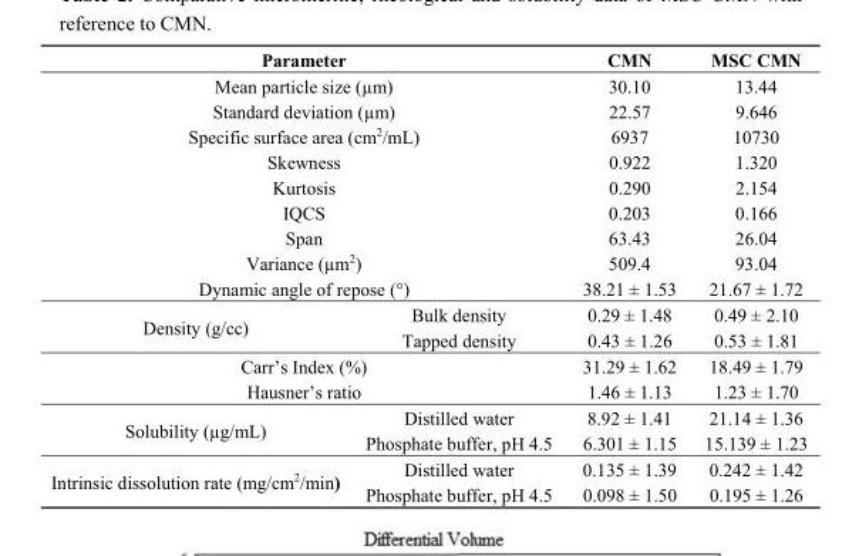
<table><thead><tr><td colspan="2">Parameter</td><td>CMN</td><td>MSC CMN</td></tr></thead><tbody><tr><td colspan="2">Mean particle size (µm)</td><td>30.10</td><td>13.44</td></tr><tr><td colspan="2">Standard deviation (µm)</td><td>22.57</td><td>9.646</td></tr><tr><td colspan="2">Specific surface area (cm<sup>2</sup>/mL)</td><td>6937</td><td>10730</td></tr><tr><td colspan="2">Skewness</td><td>0.922</td><td>1.320</td></tr><tr><td colspan="2">Kurtosis</td><td>0.290</td><td>2.154</td></tr><tr><td colspan="2">IQCS</td><td>0.203</td><td>0.166</td></tr><tr><td colspan="2">Span</td><td>63.43</td><td>26.04</td></tr><tr><td colspan="2">Variance (µm<sup>2</sup>)</td><td>509.4</td><td>93.04</td></tr><tr><td colspan="2">Dynamic angle of repose (°)</td><td>38.21 ± 1.53</td><td>21.67 ± 1.72</td></tr><tr><td rowspan="2">Density (g/cc)</td><td>Bulk density</td><td>0.29 ± 1.48</td><td>0.49 ± 2.10</td></tr><tr><td>Tapped density</td><td>0.43 ± 1.26</td><td>0.53 ± 1.81</td></tr><tr><td colspan="2">Carr’s Index (%)</td><td>31.29 ± 1.62</td><td>18.49 ± 1.79</td></tr><tr><td colspan="2">Hausner’s ratio</td><td>1.46 ± 1.13</td><td>1.23 ± 1.70</td></tr><tr><td rowspan="2">Solubility (µg/mL)</td><td>Distilled water</td><td>8.92 ± 1.41</td><td>21.14 ± 1.36</td></tr><tr><td>Phosphate buffer, pH 4.5</td><td>6.301 ± 1.15</td><td>15.139 ± 1.23</td></tr><tr><td rowspan="2">Intrinsic dissolution rate (mg/cm<sup>2</sup>/min)</td><td>Distilled water</td><td>0.135 ± 1.39</td><td>0.242 ± 1.42</td></tr><tr><td>Phosphate buffer, pH 4.5</td><td>0.098 ± 1.50</td><td>0.195 ± 1.26</td></tr></tbody></table>